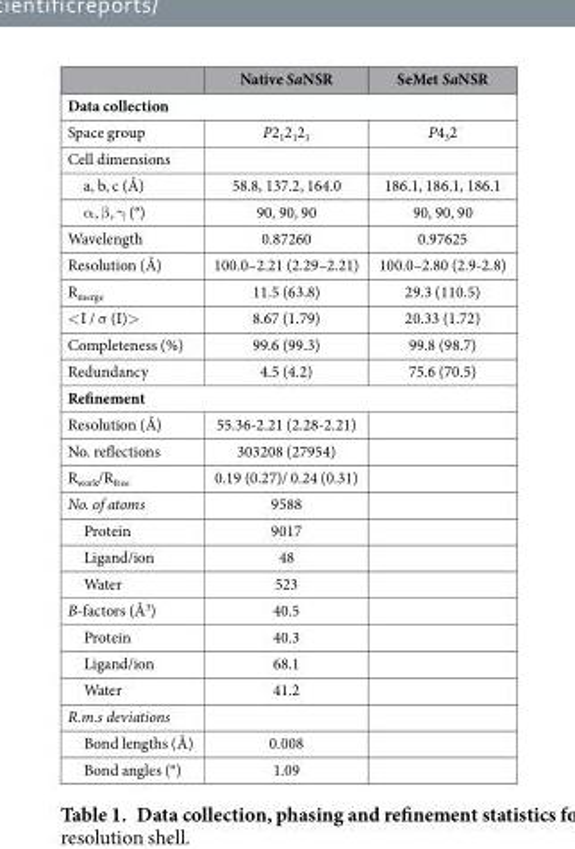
<table><thead><tr><td></td><td>Native SaNSR</td><td>SeMet SaNSR</td></tr></thead><tbody><tr><td colspan="3">Data collection</td></tr><tr><td>Space group</td><td>P2<sub>1</sub>2<sub>1</sub>2<sub>1</sub></td><td>P4<sub>3</sub>2</td></tr><tr><td colspan="3">Cell dimensions</td></tr><tr><td>a, b, c (Å)</td><td>58.8, 137.2, 164.0</td><td>186.1, 186.1, 186.1</td></tr><tr><td>α , β , γ (°)</td><td>90, 90, 90</td><td>90, 90, 90</td></tr><tr><td>Wavelength</td><td>0.87260</td><td>0.97625</td></tr><tr><td>Resolution (Å)</td><td>100.0–2.21 (2.29–2.21)</td><td>100.0–2.80 (2.9-2.8)</td></tr><tr><td>R<sub>merge</sub></td><td>11.5 (63.8)</td><td>29.3 (110.5)</td></tr><tr><td>&lt; I / σ (I)&gt;</td><td>8.67 (1.79)</td><td>20.33 (1.72)</td></tr><tr><td>Completeness (%)</td><td>99.6 (99.3)</td><td>99.8 (98.7)</td></tr><tr><td>Redundancy</td><td>4.5 (4.2)</td><td>75.6 (70.5)</td></tr><tr><td colspan="3">Refinement</td></tr><tr><td>Resolution (Å)</td><td>55.36-2.21 (2.28-2.21)</td><td></td></tr><tr><td>No. reflections</td><td>303208 (27954)</td><td></td></tr><tr><td>R<sub>work</sub>/R<sub>free</sub></td><td>0.19 (0.27)/ 0.24 (0.31)</td><td></td></tr><tr><td>No. of atoms</td><td>9588</td><td></td></tr><tr><td>Protein</td><td>9017</td><td></td></tr><tr><td>Ligand/ion</td><td>48</td><td></td></tr><tr><td>Water</td><td>523</td><td></td></tr><tr><td>B-factors (Å<sup>3</sup>)</td><td>40.5</td><td></td></tr><tr><td>Protein</td><td>40.3</td><td></td></tr><tr><td>Ligand/ion</td><td>68.1</td><td></td></tr><tr><td>Water</td><td>41.2</td><td></td></tr><tr><td colspan="3">R.m.s deviations</td></tr><tr><td>Bond lengths (Å)</td><td>0.008</td><td></td></tr><tr><td>Bond angles (°)</td><td>1.09</td><td></td></tr></tbody></table>